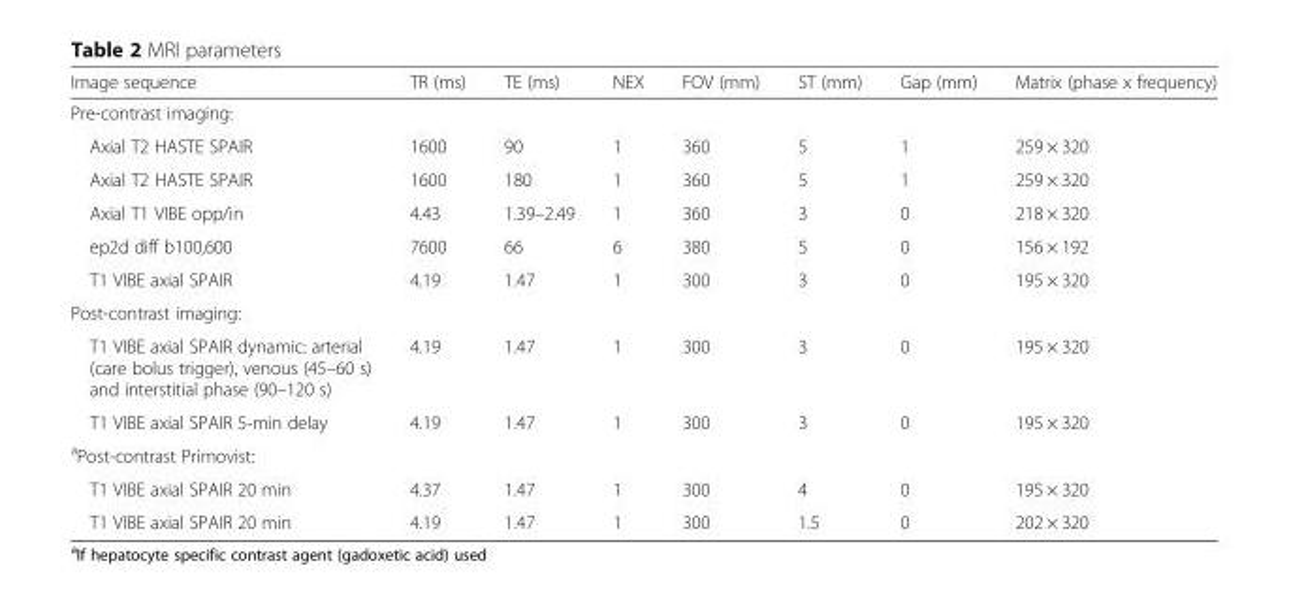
<table><thead><tr><td>Image sequence</td><td>TR (ms)</td><td>TE (ms)</td><td>NEX</td><td>FOV (mm)</td><td>ST (mm)</td><td>Gap (mm)</td><td>Matrix (phase x frequency)</td></tr></thead><tbody><tr><td colspan="8">Pre-contrast imaging:</td></tr><tr><td>Axial T2 HASTE SPAIR</td><td>1600</td><td>90</td><td>1</td><td>360</td><td>5</td><td>1</td><td>259 × 320</td></tr><tr><td>Axial T2 HASTE SPAIR</td><td>1600</td><td>180</td><td>1</td><td>360</td><td>5</td><td>1</td><td>259 × 320</td></tr><tr><td>Axial T1 VIBE opp/in</td><td>4.43</td><td>1.39–2.49</td><td>1</td><td>360</td><td>3</td><td>0</td><td>218 × 320</td></tr><tr><td>ep2d diff b100,600</td><td>7600</td><td>66</td><td>6</td><td>380</td><td>5</td><td>0</td><td>156 × 192</td></tr><tr><td>T1 VIBE axial SPAIR</td><td>4.19</td><td>1.47</td><td>1</td><td>300</td><td>3</td><td>0</td><td>195 × 320</td></tr><tr><td colspan="8">Post-contrast imaging:</td></tr><tr><td>T1 VIBE axial SPAIR dynamic: arterial (care bolus trigger), venous (45–60 s) and interstitial phase (90–120 s)</td><td>4.19</td><td>1.47</td><td>1</td><td>300</td><td>3</td><td>0</td><td>195 × 320</td></tr><tr><td>T1 VIBE axial SPAIR 5-min delay</td><td>4.19</td><td>1.47</td><td>1</td><td>300</td><td>3</td><td>0</td><td>195 × 320</td></tr><tr><td colspan="8"><sup>a</sup>Post-contrast Primovist:</td></tr><tr><td>T1 VIBE axial SPAIR 20 min</td><td>4.37</td><td>1.47</td><td>1</td><td>300</td><td>4</td><td>0</td><td>195 × 320</td></tr><tr><td>T1 VIBE axial SPAIR 20 min</td><td>4.19</td><td>1.47</td><td>1</td><td>300</td><td>1.5</td><td>0</td><td>202 × 320</td></tr></tbody></table>